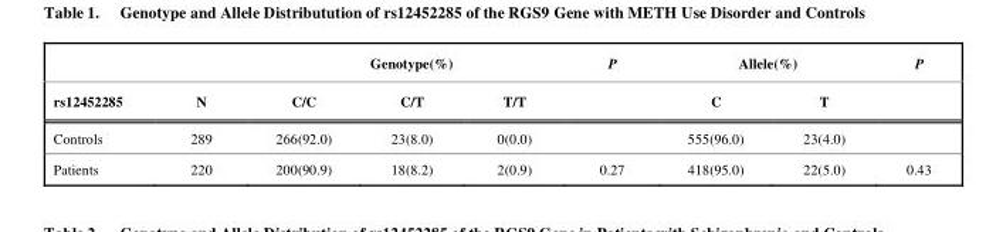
<table><thead><tr><td rowspan="2">rs12452285</td><td rowspan="2">N</td><td rowspan="2">C/C</td><td rowspan="2">Genotype(%) C/T</td><td rowspan="2">T/T</td><td rowspan="2">P</td><td colspan="2">Allele(%)</td><td rowspan="2">P</td></tr><tr><td>C</td><td>T</td></tr></thead><tbody><tr><td>Controls</td><td>289</td><td>266(92.0)</td><td>23(8.0)</td><td>0(0.0)</td><td></td><td>555(96.0)</td><td>23(4.0)</td><td></td></tr><tr><td>Patients</td><td>220</td><td>200(90.9)</td><td>18(8.2)</td><td>2(0.9)</td><td>0.27</td><td>418(95.0)</td><td>22(5.0)</td><td>0.43</td></tr></tbody></table>